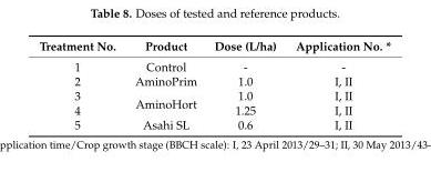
<table><thead><tr><td>Treatment No.</td><td>Product</td><td>Dose (L/ha)</td><td>Application No. *</td></tr></thead><tbody><tr><td>1</td><td>Control</td><td>-</td><td>-</td></tr><tr><td>2</td><td>AminoPrim</td><td>1.0</td><td>I, II</td></tr><tr><td>3</td><td rowspan="2">AminoHort</td><td>1.0</td><td>I, II</td></tr><tr><td>4</td><td>1.25</td><td>I, II</td></tr><tr><td>5</td><td>Asahi SL</td><td>0.6</td><td>I, II</td></tr></tbody></table>